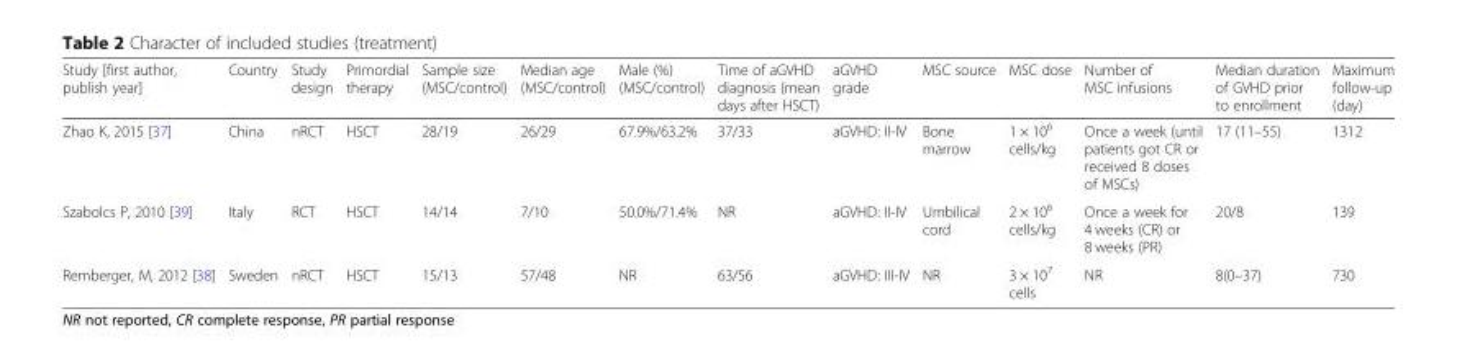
<table><thead><tr><td>Study [first author, publish year]</td><td>Country</td><td>Study design</td><td>Primordial therapy</td><td>Sample size (MSC/control)</td><td>Median age (MSC/control)</td><td>Male (%) (MSC/control)</td><td>Time of aGVHD diagnosis (mean days after HSCT)</td><td>aGVHD grade</td><td>MSC source</td><td>MSC dose</td><td>Number of MSC infusions</td><td>Median duration of GVHD prior to enrollment</td><td>Maximum follow-up (day)</td></tr></thead><tbody><tr><td>Zhao K, 2015 [37]</td><td>China</td><td>nRCT</td><td>HSCT</td><td>28/19</td><td>26/29</td><td>67.9%/63.2%</td><td>37/33</td><td>aGVHD: II-IV</td><td>Bone marrow</td><td>1 × 10<sup>6</sup> cells/kg</td><td>Once a week (until patients got CR or received 8 doses of MSCs)</td><td>17 (11–55)</td><td>1312</td></tr><tr><td>Szabolcs P, 2010 [39]</td><td>Italy</td><td>RCT</td><td>HSCT</td><td>14/14</td><td>7/10</td><td>50.0%/71.4%</td><td>NR</td><td>aGVHD: II-IV</td><td>Umbilical cord</td><td>2 × 10<sup>6</sup> cells/kg</td><td>Once a week for 4 weeks (CR) or 8 weeks (PR)</td><td>20/8</td><td>139</td></tr><tr><td>Remberger, M, 2012 [38]</td><td>Sweden</td><td>nRCT</td><td>HSCT</td><td>15/13</td><td>57/48</td><td>NR</td><td>63/56</td><td>aGVHD: III-IV</td><td>NR</td><td>3 × 10<sup>7</sup> cells</td><td>NR</td><td>8(0–37)</td><td>730</td></tr></tbody></table>